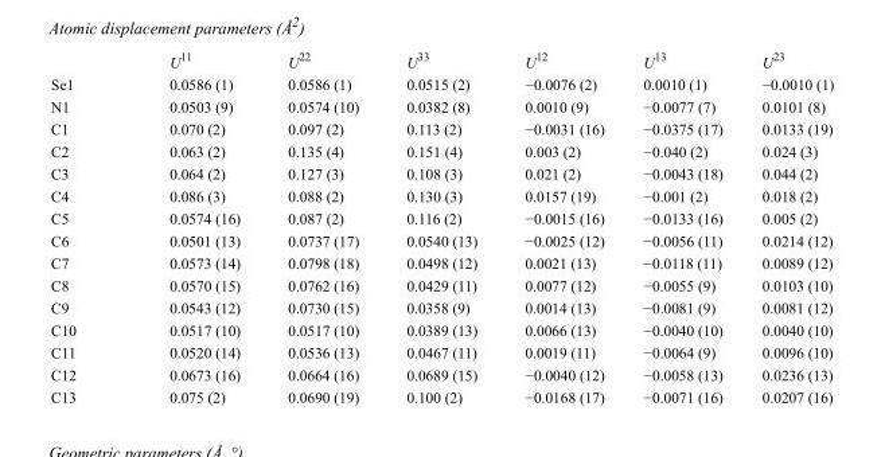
<table><thead><tr><td></td><td>U<sup>11</sup></td><td>U<sup>22</sup></td><td>U<sup>33</sup></td><td>U<sup>12</sup></td><td>U<sup>13</sup></td><td>U<sup>23</sup></td></tr></thead><tbody><tr><td>Se1</td><td>0.0586 (1)</td><td>0.0586 (1)</td><td>0.0515 (2)</td><td>−0.0076 (2)</td><td>0.0010 (1)</td><td>−0.0010 (1)</td></tr><tr><td>N1</td><td>0.0503 (9)</td><td>0.0574 (10)</td><td>0.0382 (8)</td><td>0.0010 (9)</td><td>−0.0077 (7)</td><td>0.0101 (8)</td></tr><tr><td>C1</td><td>0.070 (2)</td><td>0.097 (2)</td><td>0.113 (2)</td><td>−0.0031 (16)</td><td>−0.0375 (17)</td><td>0.0133 (19)</td></tr><tr><td>C2</td><td>0.063 (2)</td><td>0.135 (4)</td><td>0.151 (4)</td><td>0.003 (2)</td><td>−0.040 (2)</td><td>0.024 (3)</td></tr><tr><td>C3</td><td>0.064 (2)</td><td>0.127 (3)</td><td>0.108 (3)</td><td>0.021 (2)</td><td>−0.0043 (18)</td><td>0.044 (2)</td></tr><tr><td>C4</td><td>0.086 (3)</td><td>0.088 (2)</td><td>0.130 (3)</td><td>0.0157 (19)</td><td>−0.001 (2)</td><td>0.018 (2)</td></tr><tr><td>C5</td><td>0.0574 (16)</td><td>0.087 (2)</td><td>0.116 (2)</td><td>−0.0015 (16)</td><td>−0.0133 (16)</td><td>0.005 (2)</td></tr><tr><td>C6</td><td>0.0501 (13)</td><td>0.0737 (17)</td><td>0.0540 (13)</td><td>−0.0025 (12)</td><td>−0.0056 (11)</td><td>0.0214 (12)</td></tr><tr><td>C7</td><td>0.0573 (14)</td><td>0.0798 (18)</td><td>0.0498 (12)</td><td>0.0021 (13)</td><td>−0.0118 (11)</td><td>0.0089 (12)</td></tr><tr><td>C8</td><td>0.0570 (15)</td><td>0.0762 (16)</td><td>0.0429 (11)</td><td>0.0077 (12)</td><td>−0.0055 (9)</td><td>0.0103 (10)</td></tr><tr><td>C9</td><td>0.0543 (12)</td><td>0.0730 (15)</td><td>0.0358 (9)</td><td>0.0014 (13)</td><td>−0.0081 (9)</td><td>0.0081 (12)</td></tr><tr><td>C10</td><td>0.0517 (10)</td><td>0.0517 (10)</td><td>0.0389 (13)</td><td>0.0066 (13)</td><td>−0.0040 (10)</td><td>0.0040 (10)</td></tr><tr><td>C11</td><td>0.0520 (14)</td><td>0.0536 (13)</td><td>0.0467 (11)</td><td>0.0019 (11)</td><td>−0.0064 (9)</td><td>0.0096 (10)</td></tr><tr><td>C12</td><td>0.0673 (16)</td><td>0.0664 (16)</td><td>0.0689 (15)</td><td>−0.0040 (12)</td><td>−0.0058 (13)</td><td>0.0236 (13)</td></tr><tr><td>C13</td><td>0.075 (2)</td><td>0.0690 (19)</td><td>0.100 (2)</td><td>−0.0168 (17)</td><td>−0.0071 (16)</td><td>0.0207 (16)</td></tr></tbody></table>